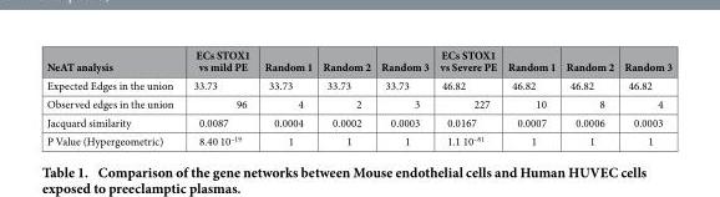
<table><thead><tr><td>NeAT analysis</td><td>ECs STOX1 vs mild PE</td><td>Random 1</td><td>Random 2</td><td>Random 3</td><td>ECs STOX1 vs Severe PE</td><td>Random 1</td><td>Random 2</td><td>Random 3</td></tr></thead><tbody><tr><td>Expected Edges in the union</td><td>33.73</td><td>33.73</td><td>33.73</td><td>33.73</td><td>46.82</td><td>46.82</td><td>46.82</td><td>46.82</td></tr><tr><td>Observed edges in the union</td><td>96</td><td>4</td><td>2</td><td>3</td><td>227</td><td>10</td><td>8</td><td>4</td></tr><tr><td>Jacquard similarity</td><td>0.0087</td><td>0.0004</td><td>0.0002</td><td>0.0003</td><td>0.0167</td><td>0.0007</td><td>0.0006</td><td>0.0003</td></tr><tr><td>P Value (Hypergeometric)</td><td>8.40 10<sup>–19</sup></td><td>1</td><td>1</td><td>1</td><td>1.1 10<sup>–81</sup></td><td>1</td><td>1</td><td>1</td></tr></tbody></table>